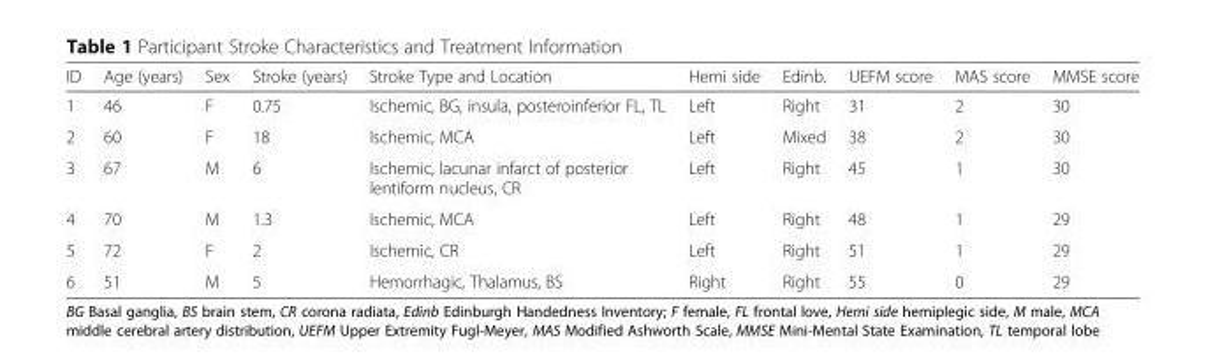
<table><thead><tr><td>ID</td><td>Age (years)</td><td>Sex</td><td>Stroke (years)</td><td>Stroke Type and Location</td><td>Hemi side</td><td>Edinb.</td><td>UEFM score</td><td>MAS score</td><td>MMSE score</td></tr></thead><tbody><tr><td>1</td><td>46</td><td>F</td><td>0.75</td><td>Ischemic, BG, insula, posteroinferior FL, TL</td><td>Left</td><td>Right</td><td>31</td><td>2</td><td>30</td></tr><tr><td>2</td><td>60</td><td>F</td><td>18</td><td>Ischemic, MCA</td><td>Left</td><td>Mixed</td><td>38</td><td>2</td><td>30</td></tr><tr><td>3</td><td>67</td><td>M</td><td>6</td><td>Ischemic, lacunar infarct of posterior lentiform nucleus, CR</td><td>Left</td><td>Right</td><td>45</td><td>1</td><td>30</td></tr><tr><td>4</td><td>70</td><td>M</td><td>1.3</td><td>Ischemic, MCA</td><td>Left</td><td>Right</td><td>48</td><td>1</td><td>29</td></tr><tr><td>5</td><td>72</td><td>F</td><td>2</td><td>Ischemic, CR</td><td>Left</td><td>Right</td><td>51</td><td>1</td><td>29</td></tr><tr><td>6</td><td>51</td><td>M</td><td>5</td><td>Hemorrhagic, Thalamus, BS</td><td>Right</td><td>Right</td><td>55</td><td>0</td><td>29</td></tr></tbody></table>